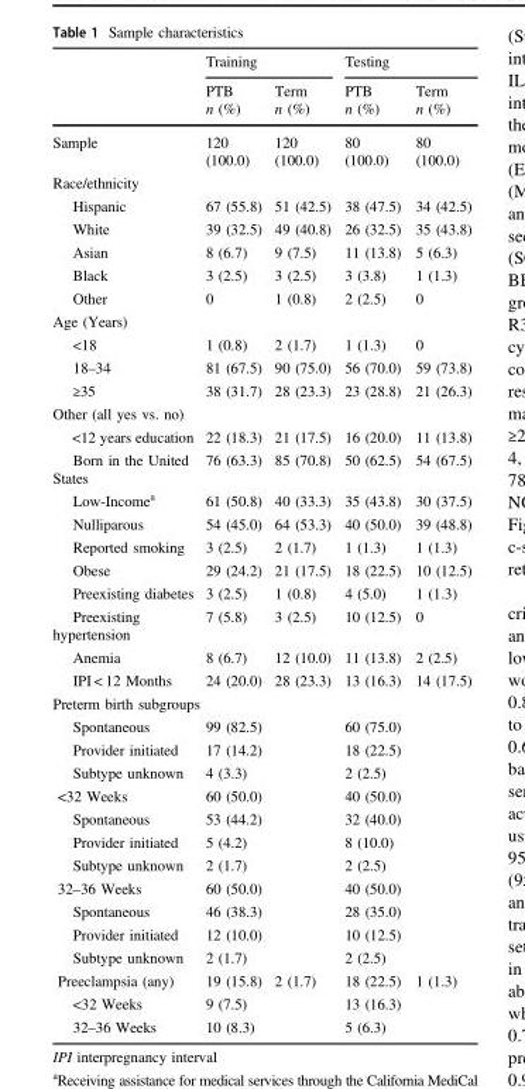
<table><thead><tr><td rowspan="2"></td><td colspan="2">Training</td><td colspan="2">Testing</td></tr><tr><td>PTB n (%)</td><td>Term n (%)</td><td>PTB n (%)</td><td>Term n (%)</td></tr></thead><tbody><tr><td>Sample</td><td>120 (100.0)</td><td>120 (100.0)</td><td>80 (100.0)</td><td>80 (100.0)</td></tr><tr><td colspan="5">Race/ethnicity</td></tr><tr><td>Hispanic</td><td>67 (55.8)</td><td>51 (42.5)</td><td>38 (47.5)</td><td>34 (42.5)</td></tr><tr><td>White</td><td>39 (32.5)</td><td>49 (40.8)</td><td>26 (32.5)</td><td>35 (43.8)</td></tr><tr><td>Asian</td><td>8 (6.7)</td><td>9 (7.5)</td><td>11 (13.8)</td><td>5 (6.3)</td></tr><tr><td>Black</td><td>3 (2.5)</td><td>3 (2.5)</td><td>3 (3.8)</td><td>1 (1.3)</td></tr><tr><td>Other</td><td>0</td><td>1 (0.8)</td><td>2 (2.5)</td><td>0</td></tr><tr><td colspan="5">Age (Years)</td></tr><tr><td>&lt;18</td><td>1 (0.8)</td><td>2 (1.7)</td><td>1 (1.3)</td><td>0</td></tr><tr><td>18–34</td><td>81 (67.5)</td><td>90 (75.0)</td><td>56 (70.0)</td><td>59 (73.8)</td></tr><tr><td>≥35</td><td>38 (31.7)</td><td>28 (23.3)</td><td>23 (28.8)</td><td>21 (26.3)</td></tr><tr><td colspan="5">Other (all yes vs. no)</td></tr><tr><td>&lt;12 years education</td><td>22 (18.3)</td><td>21 (17.5)</td><td>16 (20.0)</td><td>11 (13.8)</td></tr><tr><td>Born in the United States</td><td>76 (63.3)</td><td>85 (70.8)</td><td>50 (62.5)</td><td>54 (67.5)</td></tr><tr><td>Low-Income<sup>a</sup></td><td>61 (50.8)</td><td>40 (33.3)</td><td>35 (43.8)</td><td>30 (37.5)</td></tr><tr><td>Nulliparous</td><td>54 (45.0)</td><td>64 (53.3)</td><td>40 (50.0)</td><td>39 (48.8)</td></tr><tr><td>Reported smoking</td><td>3 (2.5)</td><td>2 (1.7)</td><td>1 (1.3)</td><td>1 (1.3)</td></tr><tr><td>Obese</td><td>29 (24.2)</td><td>21 (17.5)</td><td>18 (22.5)</td><td>10 (12.5)</td></tr><tr><td>Preexisting diabetes</td><td>3 (2.5)</td><td>1 (0.8)</td><td>4 (5.0)</td><td>1 (1.3)</td></tr><tr><td>Preexisting hypertension</td><td>7 (5.8)</td><td>3 (2.5)</td><td>10 (12.5)</td><td>0</td></tr><tr><td>Anemia</td><td>8 (6.7)</td><td>12 (10.0)</td><td>11 (13.8)</td><td>2 (2.5)</td></tr><tr><td>IPI &lt; 12 Months</td><td>24 (20.0)</td><td>28 (23.3)</td><td>13 (16.3)</td><td>14 (17.5)</td></tr><tr><td colspan="5">Preterm birth subgroups</td></tr><tr><td>Spontaneous</td><td>99 (82.5)</td><td></td><td>60 (75.0)</td><td></td></tr><tr><td>Provider initiated</td><td>17 (14.2)</td><td></td><td>18 (22.5)</td><td></td></tr><tr><td>Subtype unknown</td><td>4 (3.3)</td><td></td><td>2 (2.5)</td><td></td></tr><tr><td>&lt;32 Weeks</td><td>60 (50.0)</td><td></td><td>40 (50.0)</td><td></td></tr><tr><td>Spontaneous</td><td>53 (44.2)</td><td></td><td>32 (40.0)</td><td></td></tr><tr><td>Provider initiated</td><td>5 (4.2)</td><td></td><td>8 (10.0)</td><td></td></tr><tr><td>Subtype unknown</td><td>2 (1.7)</td><td></td><td>2 (2.5)</td><td></td></tr><tr><td>32–36 Weeks</td><td>60 (50.0)</td><td></td><td>40 (50.0)</td><td></td></tr><tr><td>Spontaneous</td><td>46 (38.3)</td><td></td><td>28 (35.0)</td><td></td></tr><tr><td>Provider initiated</td><td>12 (10.0)</td><td></td><td>10 (12.5)</td><td></td></tr><tr><td>Subtype unknown</td><td>2 (1.7)</td><td></td><td>2 (2.5)</td><td></td></tr><tr><td>Preeclampsia (any)</td><td>19 (15.8)</td><td>2 (1.7)</td><td>18 (22.5)</td><td>1 (1.3)</td></tr><tr><td>&lt;32 Weeks</td><td>9 (7.5)</td><td></td><td>13 (16.3)</td><td></td></tr><tr><td>32–36 Weeks</td><td>10 (8.3)</td><td></td><td>5 (6.3)</td><td></td></tr></tbody></table>